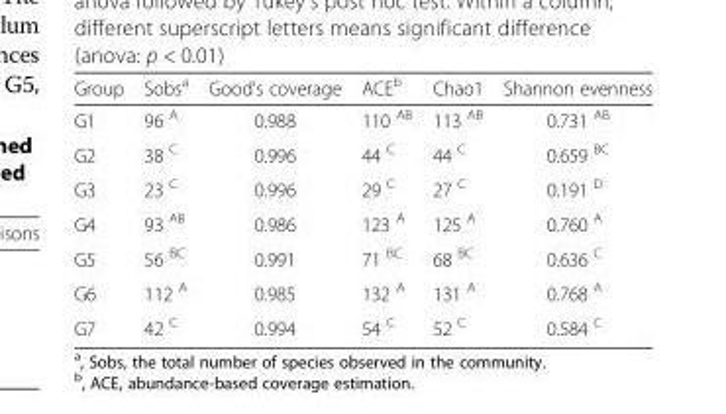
<table><thead><tr><td>Group</td><td>Sobs<sup>a</sup></td><td>Good’s coverage</td><td>ACE<sup>b</sup></td><td>Chao1</td><td>Shannon evenness</td></tr></thead><tbody><tr><td>G1</td><td>96 <sup>A</sup></td><td>0.988</td><td>110 <sup>AB</sup></td><td>113 <sup>AB</sup></td><td>0.731 <sup>AB</sup></td></tr><tr><td>G2</td><td>38 <sup>C</sup></td><td>0.996</td><td>44 <sup>C</sup></td><td>44 <sup>C</sup></td><td>0.659 <sup>BC</sup></td></tr><tr><td>G3</td><td>23 <sup>C</sup></td><td>0.996</td><td>29 <sup>C</sup></td><td>27 <sup>C</sup></td><td>0.191 <sup>D</sup></td></tr><tr><td>G4</td><td>93 <sup>AB</sup></td><td>0.986</td><td>123 <sup>A</sup></td><td>125 <sup>A</sup></td><td>0.760 <sup>A</sup></td></tr><tr><td>G5</td><td>56 <sup>BC</sup></td><td>0.991</td><td>71 <sup>BC</sup></td><td>68 <sup>BC</sup></td><td>0.636 <sup>C</sup></td></tr><tr><td>G6</td><td>112 <sup>A</sup></td><td>0.985</td><td>132 <sup>A</sup></td><td>131 <sup>A</sup></td><td>0.768 <sup>A</sup></td></tr><tr><td>G7</td><td>42 <sup>C</sup></td><td>0.994</td><td>54 <sup>C</sup></td><td>52 <sup>C</sup></td><td>0.584 <sup>C</sup></td></tr></tbody></table>